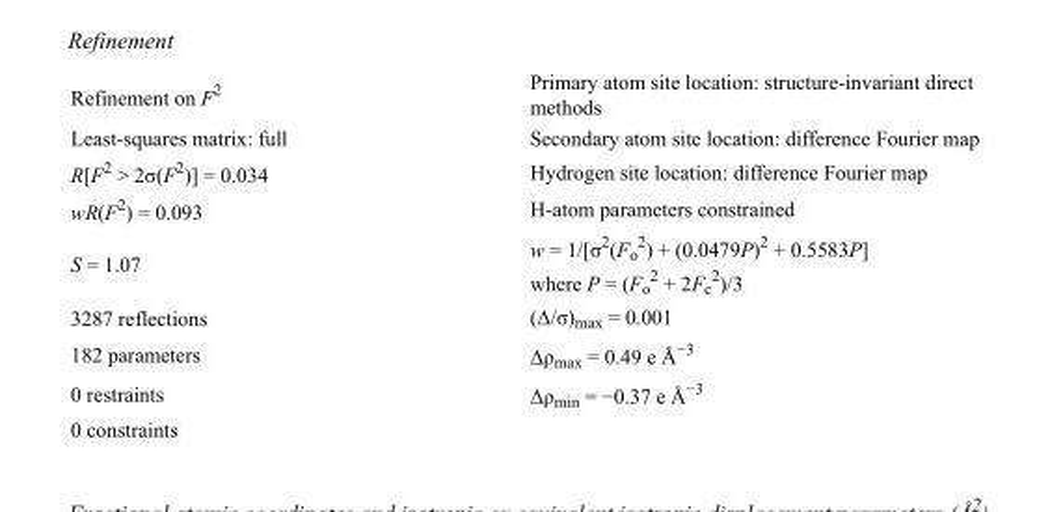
<table><tbody><tr><td>Refinement on F<sup>2</sup></td><td>Primary atom site location: structure-invariant direct methods</td></tr><tr><td>Least-squares matrix: full</td><td>Secondary atom site location: difference Fourier map</td></tr><tr><td>R[F<sup>2</sup> &gt; 2σ(F<sup>2</sup>)] = 0.034</td><td>Hydrogen site location: difference Fourier map</td></tr><tr><td>wR(F<sup>2</sup>) = 0.093</td><td>H-atom parameters constrained</td></tr><tr><td>S = 1.07</td><td>w = 1/[σ<sup>2</sup>(F<sub>o</sub> <sup>2</sup>) + (0.0479P)<sup>2</sup> + 0.5583P] where P = (F<sub>o</sub> <sup>2</sup> + 2F<sub>c</sub> <sup>2</sup>)/3</td></tr><tr><td>3287 reflections</td><td>(Δ/σ)<sub>max</sub> = 0.001</td></tr><tr><td>182 parameters</td><td>Δρ<sub>max</sub> = 0.49 e Å<sup>−3</sup></td></tr><tr><td>0 restraints</td><td>Δρmin = −0.37 e Å−3</td></tr><tr><td>0 constraints</td><td></td></tr></tbody></table>